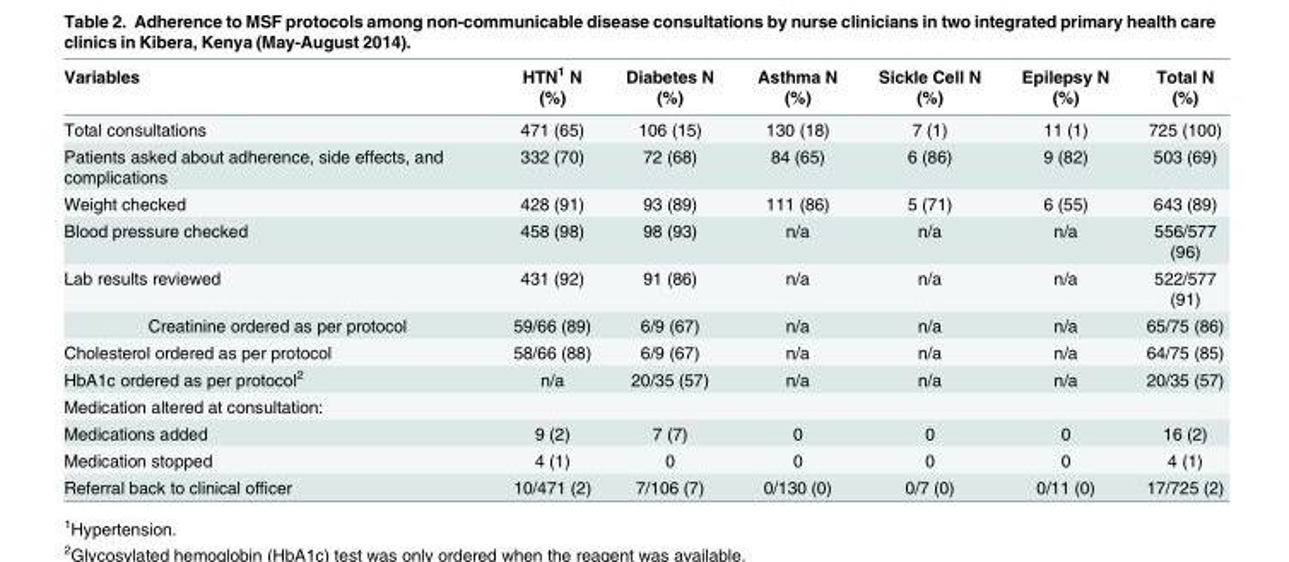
<table><thead><tr><td>Variables</td><td>HTN<sup>1</sup> N (%)</td><td>Diabetes N (%)</td><td>Asthma N (%)</td><td>Sickle Cell N (%)</td><td>Epilepsy N (%)</td><td>Total N (%)</td></tr></thead><tbody><tr><td>Total consultations</td><td>471 (65)</td><td>106 (15)</td><td>130 (18)</td><td>7 (1)</td><td>11 (1)</td><td>725 (100)</td></tr><tr><td>Patients asked about adherence, side effects, and complications</td><td>332 (70)</td><td>72 (68)</td><td>84 (65)</td><td>6 (86)</td><td>9 (82)</td><td>503 (69)</td></tr><tr><td>Weight checked</td><td>428 (91)</td><td>93 (89)</td><td>111 (86)</td><td>5 (71)</td><td>6 (55)</td><td>643 (89)</td></tr><tr><td>Blood pressure checked</td><td>458 (98)</td><td>98 (93)</td><td>n/a</td><td>n/a</td><td>n/a</td><td>556/577 (96)</td></tr><tr><td>Lab results reviewed</td><td>431 (92)</td><td>91 (86)</td><td>n/a</td><td>n/a</td><td>n/a</td><td>522/577 (91)</td></tr><tr><td>Creatinine ordered as per protocol</td><td>59/66 (89)</td><td>6/9 (67)</td><td>n/a</td><td>n/a</td><td>n/a</td><td>65/75 (86)</td></tr><tr><td>Cholesterol ordered as per protocol</td><td>58/66 (88)</td><td>6/9 (67)</td><td>n/a</td><td>n/a</td><td>n/a</td><td>64/75 (85)</td></tr><tr><td>HbA1c ordered as per protocol<sup>2</sup></td><td>n/a</td><td>20/35 (57)</td><td>n/a</td><td>n/a</td><td>n/a</td><td>20/35 (57)</td></tr><tr><td colspan="7">Medication altered at consultation:</td></tr><tr><td>Medications added</td><td>9 (2)</td><td>7 (7)</td><td>0</td><td>0</td><td>0</td><td>16 (2)</td></tr><tr><td>Medication stopped</td><td>4 (1)</td><td>0</td><td>0</td><td>0</td><td>0</td><td>4 (1)</td></tr><tr><td>Referral back to clinical officer</td><td>10/471 (2)</td><td>7/106 (7)</td><td>0/130 (0)</td><td>0/7 (0)</td><td>0/11 (0)</td><td>17/725 (2)</td></tr></tbody></table>